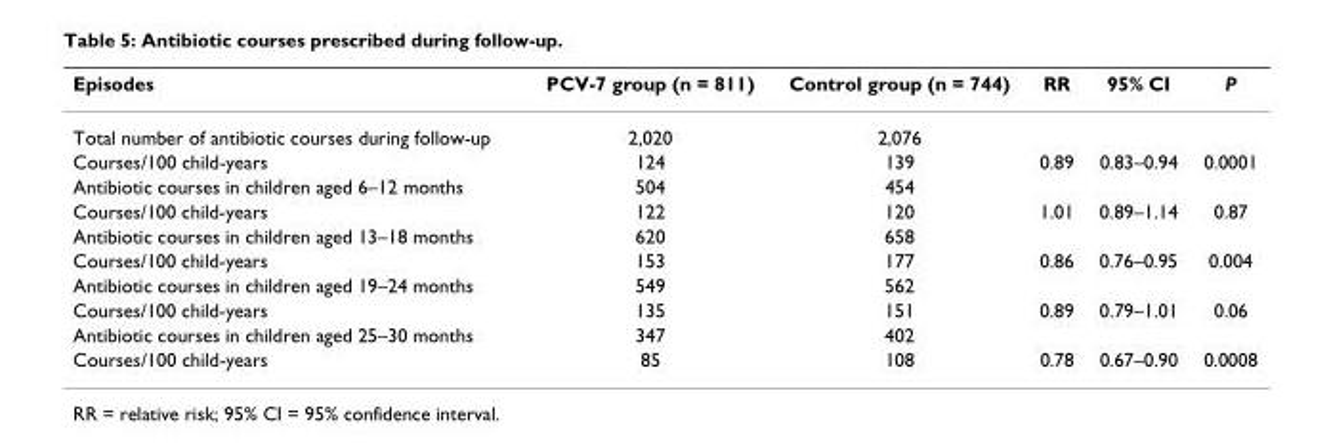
<table><thead><tr><td>Episodes</td><td>PCV-7 group (n = 811)</td><td>Control group (n = 744)</td><td>RR</td><td>95% CI</td><td>P</td></tr></thead><tbody><tr><td>Total number of antibiotic courses during follow-up</td><td>2,020</td><td>2,076</td><td></td><td></td><td></td></tr><tr><td>Courses/100 child-years</td><td>124</td><td>139</td><td>0.89</td><td>0.83–0.94</td><td>0.0001</td></tr><tr><td>Antibiotic courses in children aged 6–12 months</td><td>504</td><td>454</td><td></td><td></td><td></td></tr><tr><td>Courses/100 child-years</td><td>122</td><td>120</td><td>1.01</td><td>0.89–1.14</td><td>0.87</td></tr><tr><td>Antibiotic courses in children aged 13–18 months</td><td>620</td><td>658</td><td></td><td></td><td></td></tr><tr><td>Courses/100 child-years</td><td>153</td><td>177</td><td>0.86</td><td>0.76–0.95</td><td>0.004</td></tr><tr><td>Antibiotic courses in children aged 19–24 months</td><td>549</td><td>562</td><td></td><td></td><td></td></tr><tr><td>Courses/100 child-years</td><td>135</td><td>151</td><td>0.89</td><td>0.79–1.01</td><td>0.06</td></tr><tr><td>Antibiotic courses in children aged 25–30 months</td><td>347</td><td>402</td><td></td><td></td><td></td></tr><tr><td>Courses/100 child-years</td><td>85</td><td>108</td><td>0.78</td><td>0.67–0.90</td><td>0.0008</td></tr></tbody></table>